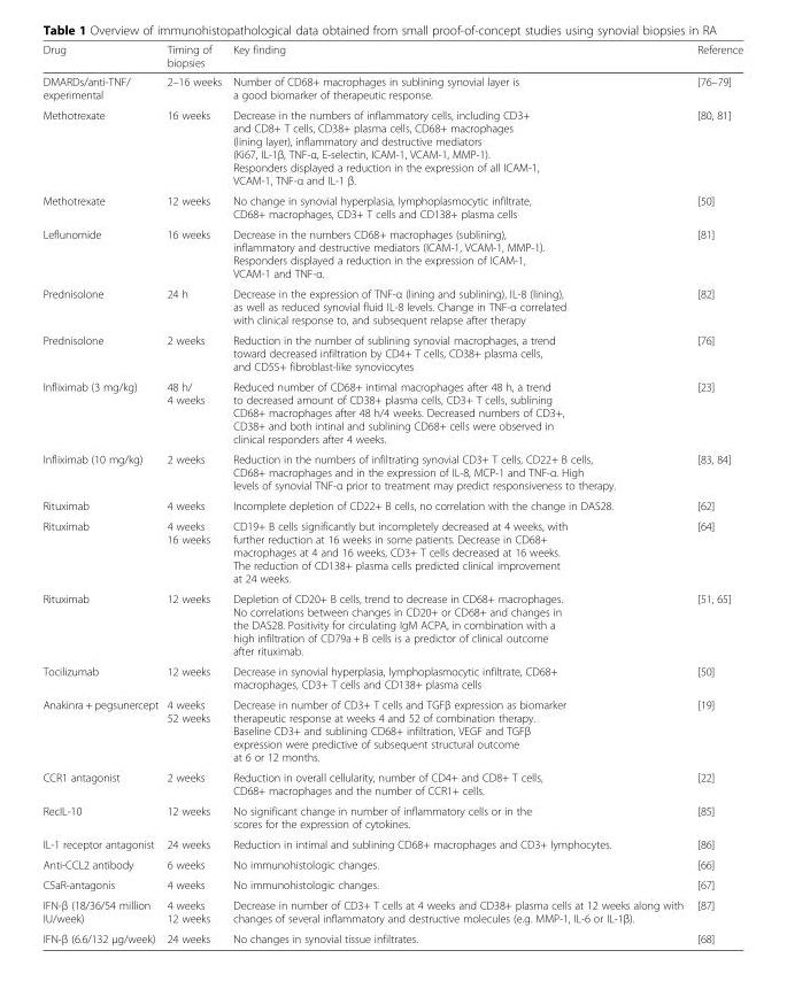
<table><thead><tr><td>Drug</td><td>Timing of biopsies</td><td>Key finding</td><td>Reference</td></tr></thead><tbody><tr><td>DMARDs/anti-TNF/ experimental</td><td>2–16 weeks</td><td>Number of CD68+ macrophages in sublining synovial layer is a good biomarker of therapeutic response.</td><td>[76–79]</td></tr><tr><td>Methotrexate</td><td>16 weeks</td><td>Decrease in the numbers of inflammatory cells, including CD3+ and CD8+ T cells, CD38+ plasma cells, CD68+ macrophages (lining layer), inflammatory and destructive mediators (Ki67, IL-1β, TNF-α, E-selectin, ICAM-1, VCAM-1, MMP-1). Responders displayed a reduction in the expression of all ICAM-1, VCAM-1, TNF-α and IL-1 β.</td><td>[80, 81]</td></tr><tr><td>Methotrexate</td><td>12 weeks</td><td>No change in synovial hyperplasia, lymphoplasmocytic infiltrate, CD68+ macrophages, CD3+ T cells and CD138+ plasma cells</td><td>[50]</td></tr><tr><td>Leflunomide</td><td>16 weeks</td><td>Decrease in the numbers CD68+ macrophages (sublining), inflammatory and destructive mediators (ICAM-1, VCAM-1, MMP-1). Responders displayed a reduction in the expression of ICAM-1, VCAM-1 and TNF-α.</td><td>[81]</td></tr><tr><td>Prednisolone</td><td>24 h</td><td>Decrease in the expression of TNF-α (lining and sublining), IL-8 (lining), as well as reduced synovial fluid IL-8 levels. Change in TNF-α correlated with clinical response to, and subsequent relapse after therapy</td><td>[82]</td></tr><tr><td>Prednisolone</td><td>2 weeks</td><td>Reduction in the number of sublining synovial macrophages, a trend toward decreased infiltration by CD4+ T cells, CD38+ plasma cells, and CD55+ fibroblast-like synoviocytes</td><td>[76]</td></tr><tr><td>Infliximab (3 mg/kg)</td><td>48 h/ 4 weeks</td><td>Reduced number of CD68+ intimal macrophages after 48 h, a trend to decreased amount of CD38+ plasma cells, CD3+ T cells, sublining CD68+ macrophages after 48 h/4 weeks. Decreased numbers of CD3+, CD38+ and both intinal and sublining CD68+ cells were observed in clinical responders after 4 weeks.</td><td>[23]</td></tr><tr><td>Infliximab (10 mg/kg)</td><td>2 weeks</td><td>Reduction in the numbers of infiltrating synovial CD3+ T cells, CD22+ B cells, CD68+ macrophages and in the expression of IL-8, MCP-1 and TNF-α. High levels of synovial TNF-α prior to treatment may predict responsiveness to therapy.</td><td>[83, 84]</td></tr><tr><td>Rituximab</td><td>4 weeks</td><td>Incomplete depletion of CD22+ B cells, no correlation with the change in DAS28.</td><td>[62]</td></tr><tr><td>Rituximab</td><td>4 weeks 16 weeks</td><td>CD19+ B cells significantly but incompletely decreased at 4 weeks, with further reduction at 16 weeks in some patients. Decrease in CD68+ macrophages at 4 and 16 weeks, CD3+ T cells decreased at 16 weeks. The reduction of CD138+ plasma cells predicted clinical improvement at 24 weeks.</td><td>[64]</td></tr><tr><td>Rituximab</td><td>12 weeks</td><td>Depletion of CD20+ B cells, trend to decrease in CD68+ macrophages. No correlations between changes in CD20+ or CD68+ and changes in the DAS28. Positivity for circulating IgM ACPA, in combination with a high infiltration of CD79a + B cells is a predictor of clinical outcome after rituximab.</td><td>[51, 65]</td></tr><tr><td>Tocilizumab</td><td>12 weeks</td><td>Decrease in synovial hyperplasia, lymphoplasmocytic infiltrate, CD68+ macrophages, CD3+ T cells and CD138+ plasma cells</td><td>[50]</td></tr><tr><td>Anakinra + pegsunercept</td><td>4 weeks 52 weeks</td><td>Decrease in number of CD3+ T cells and TGFβ expression as biomarker therapeutic response at weeks 4 and 52 of combination therapy. Baseline CD3+ and sublining CD68+ infiltration, VEGF and TGFβ expression were predictive of subsequent structural outcome at 6 or 12 months.</td><td>[19]</td></tr><tr><td>CCR1 antagonist</td><td>2 weeks</td><td>Reduction in overall cellularity, number of CD4+ and CD8+ T cells, CD68+ macrophages and the number of CCR1+ cells.</td><td>[22]</td></tr><tr><td>RecIL-10</td><td>12 weeks</td><td>No significant change in number of inflammatory cells or in the scores for the expression of cytokines.</td><td>[85]</td></tr><tr><td>IL-1 receptor antagonist</td><td>24 weeks</td><td>Reduction in intimal and sublining CD68+ macrophages and CD3+ lymphocytes.</td><td>[86]</td></tr><tr><td>Anti-CCL2 antibody</td><td>6 weeks</td><td>No immunohistologic changes.</td><td>[66]</td></tr><tr><td>C5aR-antagonis</td><td>4 weeks</td><td>No immunohistologic changes.</td><td>[67]</td></tr><tr><td>IFN-β (18/36/54 million IU/week)</td><td>4 weeks 12 weeks</td><td>Decrease in number of CD3+ T cells at 4 weeks and CD38+ plasma cells at 12 weeks along with changes of several inflammatory and destructive molecules (e.g. MMP-1, IL-6 or IL-1β).</td><td>[87]</td></tr><tr><td>IFN-β (6.6/132 μg/week)</td><td>24 weeks</td><td>No changes in synovial tissue infiltrates.</td><td>[68]</td></tr></tbody></table>